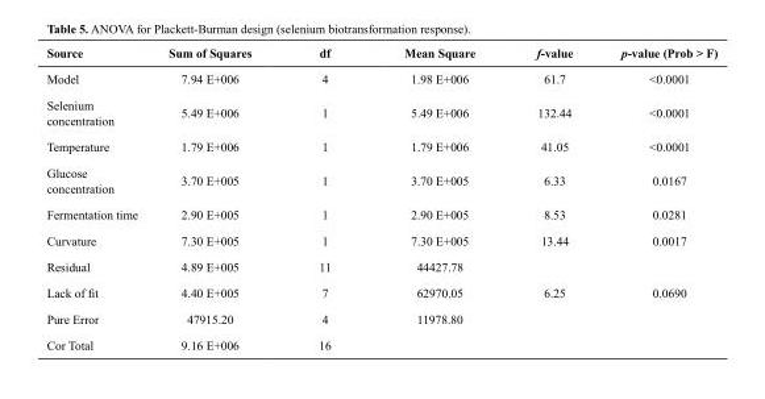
<table><thead><tr><td>Source</td><td>Sum of Squares</td><td>df</td><td>Mean Square</td><td>f-value</td><td>p-value (Prob ˃ F)</td></tr></thead><tbody><tr><td>Model</td><td>7.94 E+006</td><td>4</td><td>1.98 E+006</td><td>61.7</td><td>˂0.0001</td></tr><tr><td>Selenium concentration</td><td>5.49 E+006</td><td>1</td><td>5.49 E+006</td><td>132.44</td><td>˂0.0001</td></tr><tr><td>Temperature</td><td>1.79 E+006</td><td>1</td><td>1.79 E+006</td><td>41.05</td><td>˂0.0001</td></tr><tr><td>Glucose concentration</td><td>3.70 E+005</td><td>1</td><td>3.70 E+005</td><td>6.33</td><td>0.0167</td></tr><tr><td>Fermentation time</td><td>2.90 E+005</td><td>1</td><td>2.90 E+005</td><td>8.53</td><td>0.0281</td></tr><tr><td>Curvature</td><td>7.30 E+005</td><td>1</td><td>7.30 E+005</td><td>13.44</td><td>0.0017</td></tr><tr><td>Residual</td><td>4.89 E+005</td><td>11</td><td>44427.78</td><td></td><td></td></tr><tr><td>Lack of fit</td><td>4.40 E+005</td><td>7</td><td>62970.05</td><td>6.25</td><td>0.0690</td></tr><tr><td>Pure Error</td><td>47915.20</td><td>4</td><td>11978.80</td><td></td><td></td></tr><tr><td>Cor Total</td><td>9.16 E+006</td><td>16</td><td></td><td></td><td></td></tr></tbody></table>